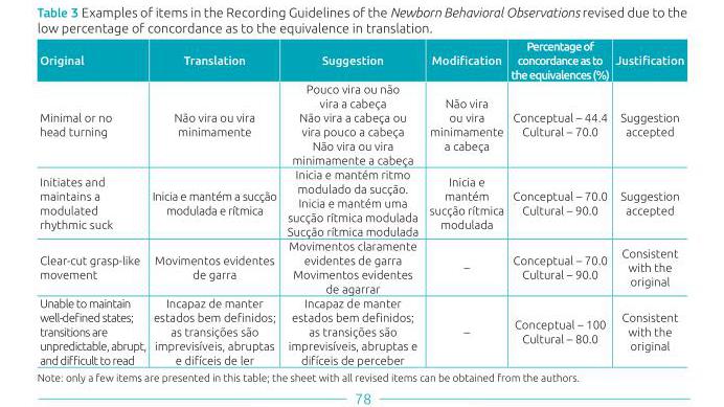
<table><thead><tr><td>Original</td><td>Translation</td><td>Suggestion</td><td>Modification</td><td>Percentage of concordance as to the equivalences (%)</td><td>Justification</td></tr></thead><tbody><tr><td>Minimal or no head turning</td><td>Não vira ou vira minimamente</td><td>Pouco vira ou não vira a cabeça Não vira a cabeça ou vira pouco a cabeça Não vira ou vira minimamente a cabeça</td><td>Não vira ou vira minimamente a cabeça</td><td>Conceptual – 44.4 Cultural – 70.0</td><td>Suggestion accepted</td></tr><tr><td>Initiates and maintains a modulated rhythmic suck</td><td>Inicia e mantém a sucção modulada e rítmica</td><td>Inicia e mantém ritmo modulado da sucção. Inicia e mantém uma sucção rítmica modulada Sucção rítmica modulada</td><td>Inicia e mantém sucção rítmica modulada</td><td>Conceptual – 70.0 Cultural – 90.0</td><td>Suggestion accepted</td></tr><tr><td>Clear-cut grasp-like movement</td><td>Movimentos evidentes de garra</td><td>Movimentos claramente evidentes de garra Movimentos evidentes de agarrar</td><td>–</td><td>Conceptual – 70.0 Cultural – 90.0</td><td>Consistent with the original</td></tr><tr><td>Unable to maintain well-defined states; transitions are unpredictable, abrupt, and difficult to read</td><td>Incapaz de manter estados bem definidos; as transições são imprevisíveis, abruptas e difíceis de ler</td><td>Incapaz de manter estados bem definidos; as transições são imprevisíveis, abruptas e difíceis de perceber</td><td>–</td><td>Conceptual – 100 Cultural – 80.0</td><td>Consistent with the original</td></tr></tbody></table>